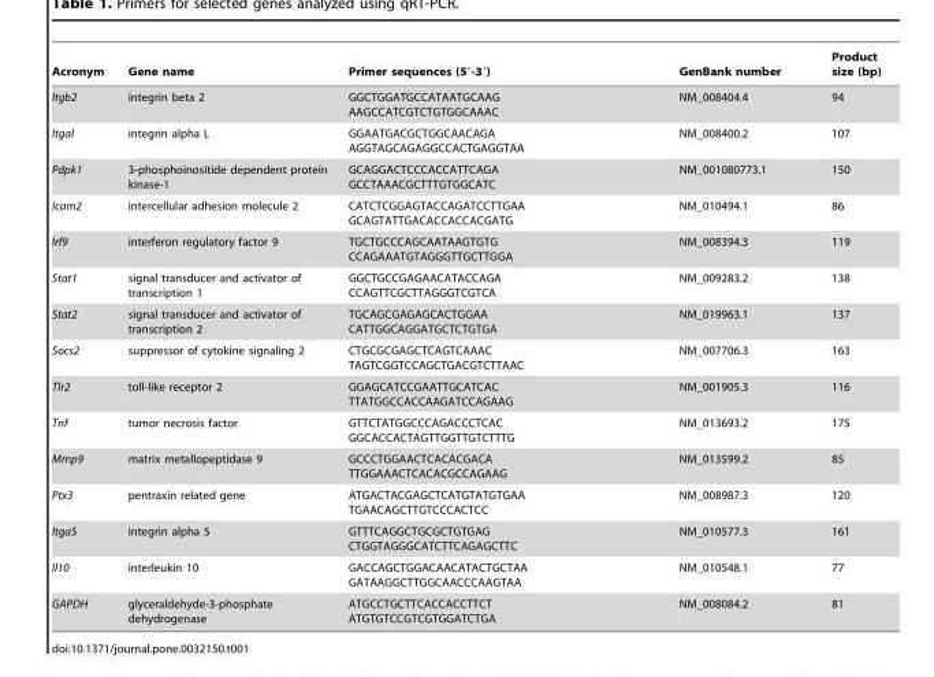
<table><thead><tr><td>Acronym</td><td>Gene name</td><td>Primer sequences (5′-3′)</td><td>GenBank number</td><td>Product size (bp)</td></tr></thead><tbody><tr><td>Itgb2</td><td>integrin beta 2</td><td>GGCTGGATGCCATAATGCAAG AAGCCATCGTCTGTGGCAAAC</td><td>NM_008404.4</td><td>94</td></tr><tr><td>Itgal</td><td>integrin alpha L</td><td>GGAATGACGCTGGCAACAGA AGGTAGCAGAGGCCACTGAGGTAA</td><td>NM_008400.2</td><td>107</td></tr><tr><td>Pdpk1</td><td>3-phosphoinositide dependent protein kinase-1</td><td>GCAGGACTCCCACCATTCAGA GCCTAAACGCTTTGTGGCATC</td><td>NM_001080773.1</td><td>150</td></tr><tr><td>Icam2</td><td>intercellular adhesion molecule 2</td><td>CATCTCGGAGTACCAGATCCTTGAA GCAGTATTGACACCACCACGATG</td><td>NM_010494.1</td><td>86</td></tr><tr><td>Irf9</td><td>interferon regulatory factor 9</td><td>TGCTGCCCAGCAATAAGTGTG CCAGAAATGTAGGGTTGCTTGGA</td><td>NM_008394.3</td><td>119</td></tr><tr><td>Stat1</td><td>signal transducer and activator of transcription 1</td><td>GGCTGCCGAGAACATACCAGA CCAGTTCGCTTAGGGTCGTCA</td><td>NM_009283.2</td><td>138</td></tr><tr><td>Stat2</td><td>signal transducer and activator of transcription 2</td><td>TGCAGCGAGAGCACTGGAA CATTGGCAGGATGCTCTGTGA</td><td>NM_019963.1</td><td>137</td></tr><tr><td>Socs2</td><td>suppressor of cytokine signaling 2</td><td>CTGCGCGAGCTCAGTCAAAC TAGTCGGTCCAGCTGACGTCTTAAC</td><td>NM_007706.3</td><td>163</td></tr><tr><td>Tlr2</td><td>toll-like receptor 2</td><td>GGAGCATCCGAATTGCATCAC TTATGGCCACCAAGATCCAGAAG</td><td>NM_001905.3</td><td>116</td></tr><tr><td>Tnf</td><td>tumor necrosis factor</td><td>GTTCTATGGCCCAGACCCTCAC GGCACCACTAGTTGGTTGTCTTTG</td><td>NM_013693.2</td><td>175</td></tr><tr><td>Mmp9</td><td>matrix metallopeptidase 9</td><td>GCCCTGGAACTCACACGACA TTGGAAACTCACACGCCAGAAG</td><td>NM_013599.2</td><td>85</td></tr><tr><td>Ptx3</td><td>pentraxin related gene</td><td>ATGACTACGAGCTCATGTATGTGAA TGAACAGCTTGTCCCACTCC</td><td>NM_008987.3</td><td>120</td></tr><tr><td>Itga5</td><td>integrin alpha 5</td><td>GTTTCAGGCTGCGCTGTGAG CTGGTAGGGCATCTTCAGAGCTTC</td><td>NM_010577.3</td><td>161</td></tr><tr><td>Il10</td><td>interleukin 10</td><td>GACCAGCTGGACAACATACTGCTAA GATAAGGCTTGGCAACCCAAGTAA</td><td>NM_010548.1</td><td>77</td></tr><tr><td>GAPDH</td><td>glyceraldehyde-3-phosphate dehydrogenase</td><td>ATGCCTGCTTCACCACCTTCT ATGTGTCCGTCGTGGATCTGA</td><td>NM_008084.2</td><td>81</td></tr></tbody></table>